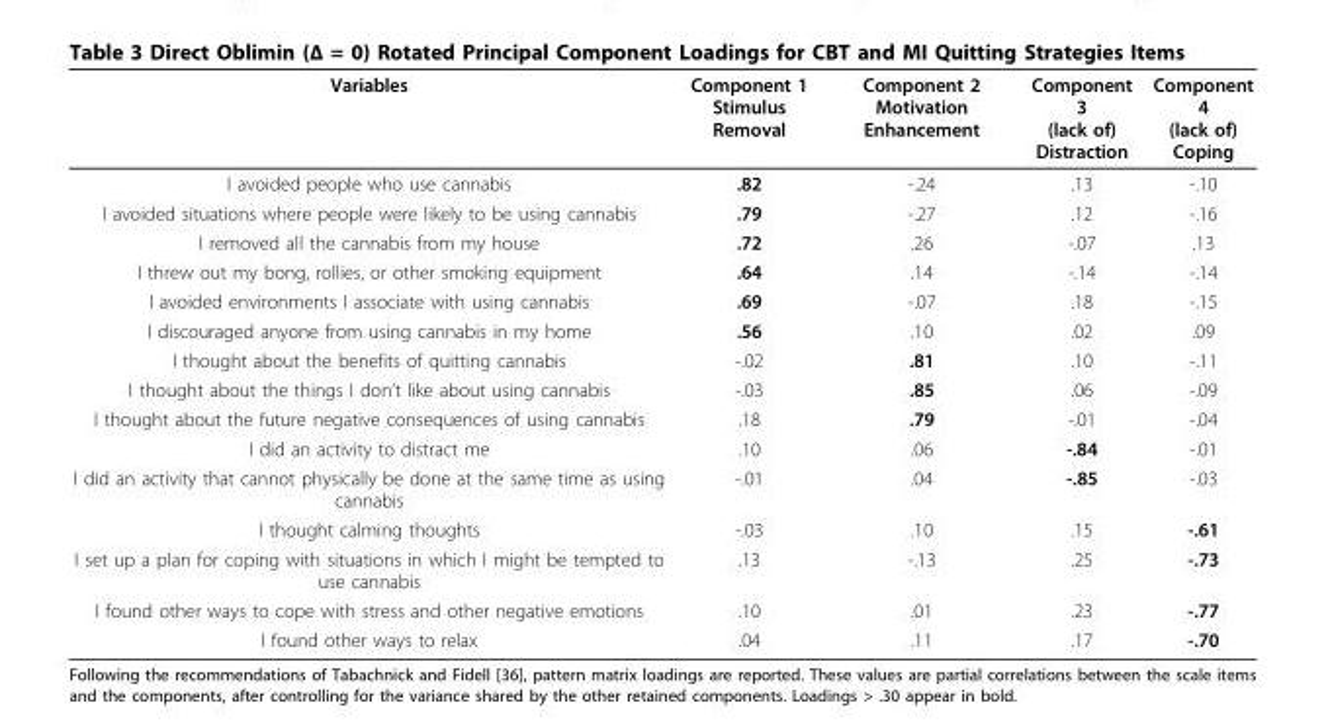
<table><thead><tr><td>Variables</td><td>Component 1 Stimulus Removal</td><td>Component 2 Motivation Enhancement</td><td>Component 3 (lack of) Distraction</td><td>Component 4 (lack of) Coping</td></tr></thead><tbody><tr><td>I avoided people who use cannabis</td><td>.82</td><td>-.24</td><td>.13</td><td>-.10</td></tr><tr><td>I avoided situations where people were likely to be using cannabis</td><td>.79</td><td>-.27</td><td>.12</td><td>-.16</td></tr><tr><td>I removed all the cannabis from my house</td><td>.72</td><td>.26</td><td>-.07</td><td>.13</td></tr><tr><td>I threw out my bong, rollies, or other smoking equipment</td><td>.64</td><td>.14</td><td>-.14</td><td>-.14</td></tr><tr><td>I avoided environments I associate with using cannabis</td><td>.69</td><td>-.07</td><td>.18</td><td>-.15</td></tr><tr><td>I discouraged anyone from using cannabis in my home</td><td>.56</td><td>.10</td><td>.02</td><td>.09</td></tr><tr><td>I thought about the benefits of quitting cannabis</td><td>-.02</td><td>.81</td><td>.10</td><td>-.11</td></tr><tr><td>I thought about the things I don’t like about using cannabis</td><td>-.03</td><td>.85</td><td>.06</td><td>-.09</td></tr><tr><td>I thought about the future negative consequences of using cannabis</td><td>.18</td><td>.79</td><td>-.01</td><td>-.04</td></tr><tr><td>I did an activity to distract me</td><td>.10</td><td>.06</td><td>-.84</td><td>-.01</td></tr><tr><td>I did an activity that cannot physically be done at the same time as using cannabis</td><td>-.01</td><td>.04</td><td>-.85</td><td>-.03</td></tr><tr><td>I thought calming thoughts</td><td>-.03</td><td>.10</td><td>.15</td><td>-.61</td></tr><tr><td>I set up a plan for coping with situations in which I might be tempted to use cannabis</td><td>.13</td><td>-.13</td><td>.25</td><td>-.73</td></tr><tr><td>I found other ways to cope with stress and other negative emotions</td><td>.10</td><td>.01</td><td>.23</td><td>-.77</td></tr><tr><td>I found other ways to relax</td><td>.04</td><td>.11</td><td>.17</td><td>-.70</td></tr></tbody></table>